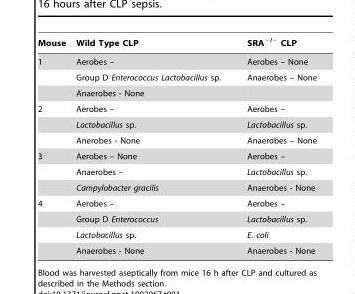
<table><thead><tr><td>Mouse</td><td>Wild Type CLP</td><td>SRA<sup>−/−</sup> CLP</td></tr></thead><tbody><tr><td rowspan="3">1</td><td>Aerobes –</td><td>Aerobes – None</td></tr><tr><td>Group D Enterococcus Lactobacillus sp.</td><td>Anaerobes – None</td></tr><tr><td>Anaerobes - None</td><td></td></tr><tr><td rowspan="3">2</td><td>Aerobes –</td><td>Aerobes –</td></tr><tr><td>Lactobacillus sp.</td><td>Lactobacillus sp.</td></tr><tr><td>Anerobes - None</td><td>Anaerobes – None</td></tr><tr><td rowspan="3">3</td><td>Aerobes – None</td><td>Aerobes –</td></tr><tr><td>Anaerobes –</td><td>Lactobacillus sp.</td></tr><tr><td>Campylobacter gracilis</td><td>Anaerobes - None</td></tr><tr><td rowspan="4">4</td><td>Aerobes –</td><td>Aerobes –</td></tr><tr><td>Group D Enterococcus</td><td>Lactobacillus sp.</td></tr><tr><td>Lactobacillus sp.</td><td>E. coli</td></tr><tr><td>Anaerobes - None</td><td>Anaerobes - None</td></tr></tbody></table>